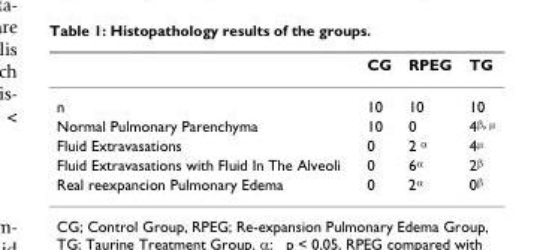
<table><thead><tr><td></td><td>CG</td><td>RPEG</td><td>TG</td></tr></thead><tbody><tr><td>n</td><td>10</td><td>10</td><td>10</td></tr><tr><td>Normal Pulmonary Parenchyma</td><td>10</td><td>0</td><td>4<sup>β, μ</sup></td></tr><tr><td>Fluid Extravasations</td><td>0</td><td>2 <sup>α</sup></td><td>4<sup>μ</sup></td></tr><tr><td>Fluid Extravasations with Fluid In The Alveoli</td><td>0</td><td>6<sup>α</sup></td><td>2<sup>β</sup></td></tr><tr><td>Real reexpancion Pulmonary Edema</td><td>0</td><td>2<sup>α</sup></td><td>0<sup>β</sup></td></tr></tbody></table>